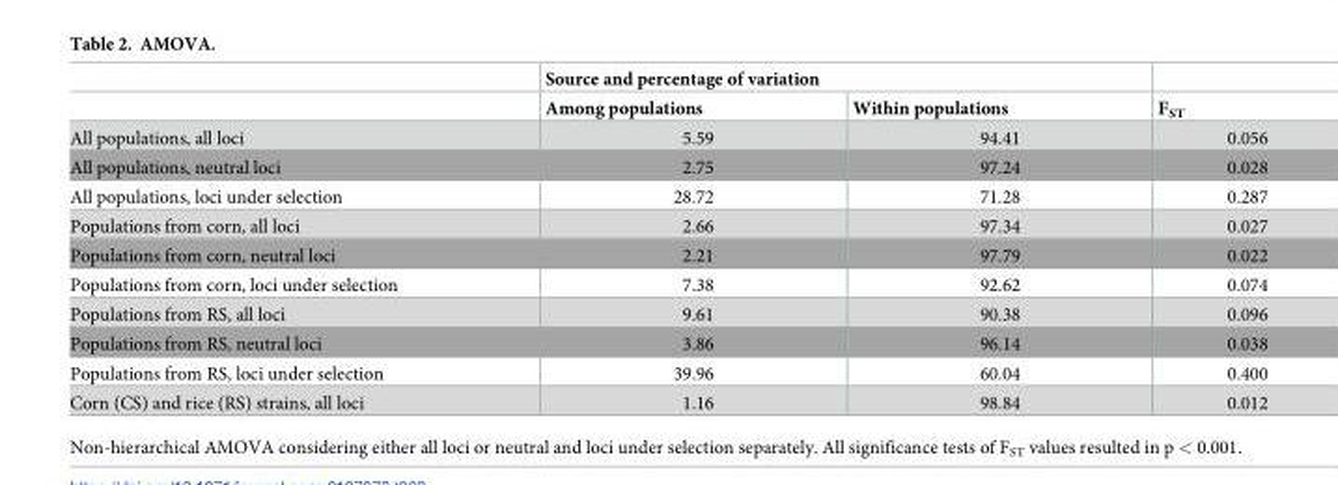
<table><thead><tr><td rowspan="2"></td><td colspan="2">Source and percentage of variation</td><td rowspan="2">F<sub>ST</sub></td></tr><tr><td>Among populations</td><td>Within populations</td></tr></thead><tbody><tr><td>All populations, all loci</td><td>5.59</td><td>94.41</td><td>0.056</td></tr><tr><td>All populations, neutral loci</td><td>2.75</td><td>97.24</td><td>0.028</td></tr><tr><td>All populations, loci under selection</td><td>28.72</td><td>71.28</td><td>0.287</td></tr><tr><td>Populations from corn, all loci</td><td>2.66</td><td>97.34</td><td>0.027</td></tr><tr><td>Populations from corn, neutral loci</td><td>2.21</td><td>97.79</td><td>0.022</td></tr><tr><td>Populations from corn, loci under selection</td><td>7.38</td><td>92.62</td><td>0.074</td></tr><tr><td>Populations from RS, all loci</td><td>9.61</td><td>90.38</td><td>0.096</td></tr><tr><td>Populations from RS, neutral loci</td><td>3.86</td><td>96.14</td><td>0.038</td></tr><tr><td>Populations from RS, loci under selection</td><td>39.96</td><td>60.04</td><td>0.400</td></tr><tr><td>Corn (CS) and rice (RS) strains, all loci</td><td>1.16</td><td>98.84</td><td>0.012</td></tr></tbody></table>